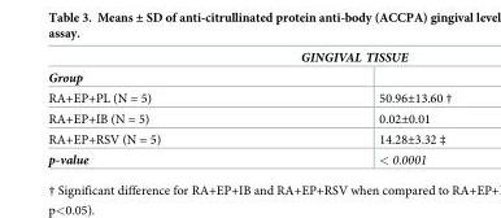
<table><thead><tr><td colspan="2">GINGIVAL TISSUE</td></tr><tr><td>Group</td><td></td></tr></thead><tbody><tr><td>RA+EP+PL (N = 5)</td><td>50.96±13.60 †</td></tr><tr><td>RA+EP+IB (N = 5)</td><td>0.02±0.01</td></tr><tr><td>RA+EP+RSV (N = 5)</td><td>14.28±3.32 ‡</td></tr><tr><td>p-value</td><td>&lt; 0.0001</td></tr></tbody></table>